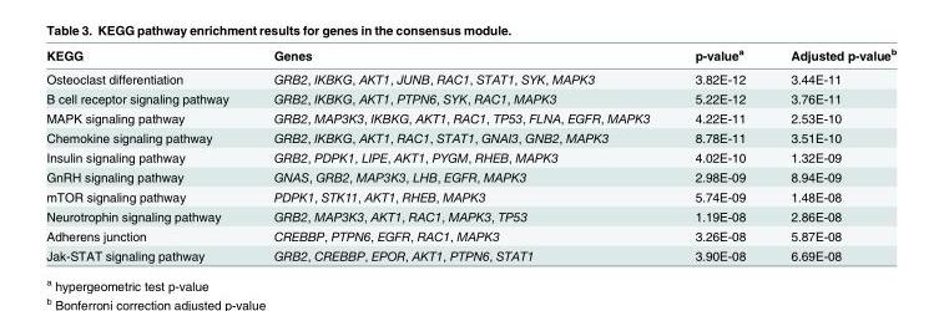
<table><thead><tr><td>KEGG</td><td>Genes</td><td>p-value<sup>a</sup></td><td>Adjusted p-value<sup>b</sup></td></tr></thead><tbody><tr><td>Osteoclast differentiation</td><td>GRB2, IKBKG, AKT1, JUNB, RAC1, STAT1, SYK, MAPK3</td><td>3.82E-12</td><td>3.44E-11</td></tr><tr><td>B cell receptor signaling pathway</td><td>GRB2, IKBKG, AKT1, PTPN6, SYK, RAC1, MAPK3</td><td>5.22E-12</td><td>3.76E-11</td></tr><tr><td>MAPK signaling pathway</td><td>GRB2, MAP3K3, IKBKG, AKT1, RAC1, TP53, FLNA, EGFR, MAPK3</td><td>4.22E-11</td><td>2.53E-10</td></tr><tr><td>Chemokine signaling pathway</td><td>GRB2, IKBKG, AKT1, RAC1, STAT1, GNAI3, GNB2, MAPK3</td><td>8.78E-11</td><td>3.51E-10</td></tr><tr><td>Insulin signaling pathway</td><td>GRB2, PDPK1, LIPE, AKT1, PYGM, RHEB, MAPK3</td><td>4.02E-10</td><td>1.32E-09</td></tr><tr><td>GnRH signaling pathway</td><td>GNAS, GRB2, MAP3K3, LHB, EGFR, MAPK3</td><td>2.98E-09</td><td>8.94E-09</td></tr><tr><td>mTOR signaling pathway</td><td>PDPK1, STK11, AKT1, RHEB, MAPK3</td><td>5.74E-09</td><td>1.48E-08</td></tr><tr><td>Neurotrophin signaling pathway</td><td>GRB2, MAP3K3, AKT1, RAC1, MAPK3, TP53</td><td>1.19E-08</td><td>2.86E-08</td></tr><tr><td>Adherens junction</td><td>CREBBP, PTPN6, EGFR, RAC1, MAPK3</td><td>3.26E-08</td><td>5.87E-08</td></tr><tr><td>Jak-STAT signaling pathway</td><td>GRB2, CREBBP, EPOR, AKT1, PTPN6, STAT1</td><td>3.90E-08</td><td>6.69E-08</td></tr></tbody></table>